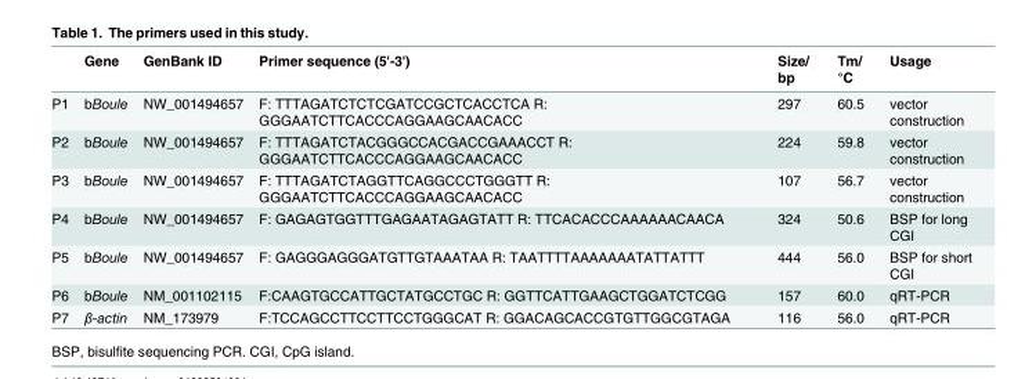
<table><thead><tr><td></td><td>Gene</td><td>GenBank ID</td><td>Primer sequence (5&#x27;-3&#x27;)</td><td>Size/ bp</td><td>Tm/ °C</td><td>Usage</td></tr></thead><tbody><tr><td>P1</td><td>bBoule</td><td>NW_001494657</td><td>F: TTTAGATCTCTCGATCCGCTCACCTCA R: GGGAATCTTCACCCAGGAAGCAACACC</td><td>297</td><td>60.5</td><td>vector construction</td></tr><tr><td>P2</td><td>bBoule</td><td>NW_001494657</td><td>F: TTTAGATCTACGGGCCACGACCGAAACCT R: GGGAATCTTCACCCAGGAAGCAACACC</td><td>224</td><td>59.8</td><td>vector construction</td></tr><tr><td>P3</td><td>bBoule</td><td>NW_001494657</td><td>F: TTTAGATCTAGGTTCAGGCCCTGGGTT R: GGGAATCTTCACCCAGGAAGCAACACC</td><td>107</td><td>56.7</td><td>vector construction</td></tr><tr><td>P4</td><td>bBoule</td><td>NW_001494657</td><td>F: GAGAGTGGTTTGAGAATAGAGTATT R: TTCACACCCAAAAAACAACA</td><td>324</td><td>50.6</td><td>BSP for long CGI</td></tr><tr><td>P5</td><td>bBoule</td><td>NW_001494657</td><td>F: GAGGGAGGGATGTTGTAAATAA R: TAATTTTAAAAAAATATTATTT</td><td>444</td><td>56.0</td><td>BSP for short CGI</td></tr><tr><td>P6</td><td>bBoule</td><td>NM_001102115</td><td>F:CAAGTGCCATTGCTATGCCTGC R: GGTTCATTGAAGCTGGATCTCGG</td><td>157</td><td>60.0</td><td>qRT-PCR</td></tr><tr><td>P7</td><td>β-actin</td><td>NM_173979</td><td>F:TCCAGCCTTCCTTCCTGGGCAT R: GGACAGCACCGTGTTGGCGTAGA</td><td>116</td><td>56.0</td><td>qRT-PCR</td></tr></tbody></table>